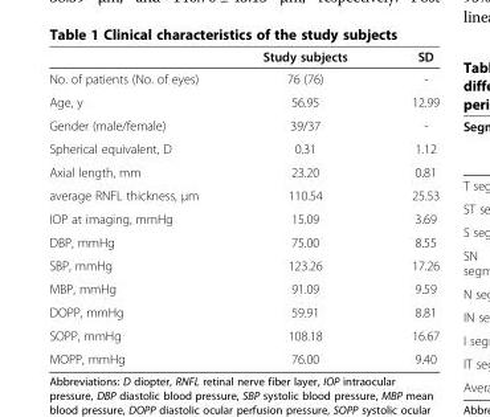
<table><thead><tr><td></td><td>Study subjects</td><td>SD</td></tr></thead><tbody><tr><td>No. of patients (No. of eyes)</td><td>76 (76)</td><td>-</td></tr><tr><td>Age, y</td><td>56.95</td><td>12.99</td></tr><tr><td>Gender (male/female)</td><td>39/37</td><td>-</td></tr><tr><td>Spherical equivalent, D</td><td>0.31</td><td>1.12</td></tr><tr><td>Axial length, mm</td><td>23.20</td><td>0.81</td></tr><tr><td>average RNFL thickness, μm</td><td>110.54</td><td>25.53</td></tr><tr><td>IOP at imaging, mmHg</td><td>15.09</td><td>3.69</td></tr><tr><td>DBP, mmHg</td><td>75.00</td><td>8.55</td></tr><tr><td>SBP, mmHg</td><td>123.26</td><td>17.26</td></tr><tr><td>MBP, mmHg</td><td>91.09</td><td>9.59</td></tr><tr><td>DOPP, mmHg</td><td>59.91</td><td>8.81</td></tr><tr><td>SOPP, mmHg</td><td>108.18</td><td>16.67</td></tr><tr><td>MOPP, mmHg</td><td>76.00</td><td>9.40</td></tr></tbody></table>